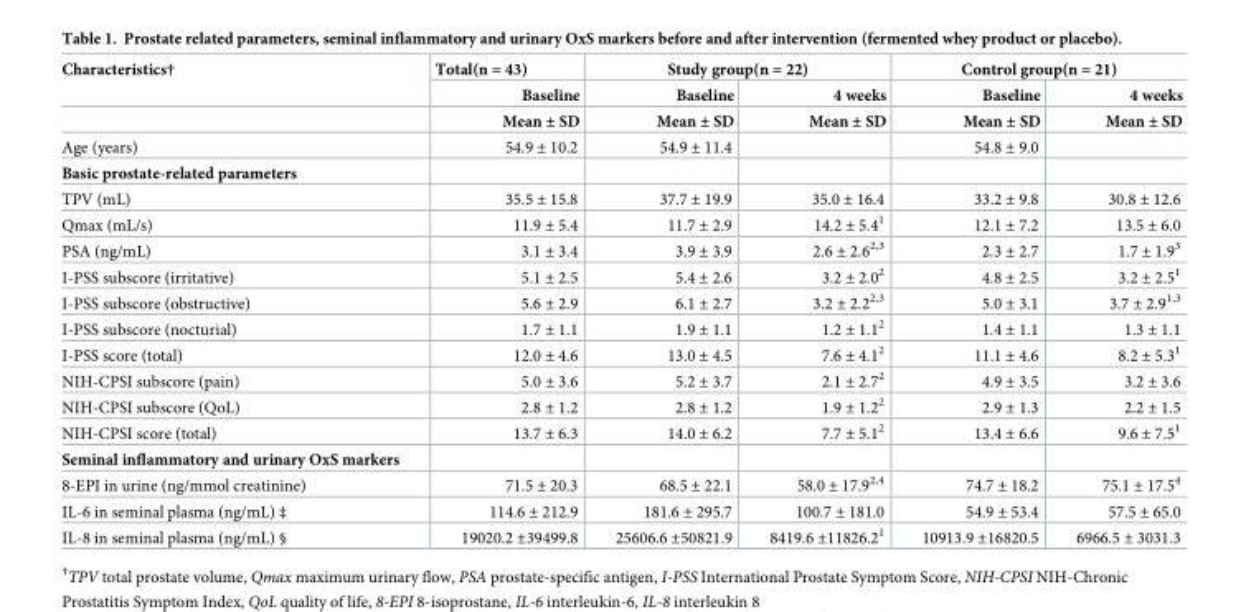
<table><thead><tr><td rowspan="3">Characteristics†</td><td rowspan="3">Total(n = 43) Baseline Mean ± SD</td><td colspan="2">Study group(n = 22)</td><td colspan="2">Control group(n = 21)</td></tr><tr><td rowspan="2">Baseline Mean ± SD</td><td rowspan="2">4 weeks Mean ± SD</td><td rowspan="2">Baseline Mean ± SD</td><td rowspan="2">4 weeks Mean ± SD</td></tr><tr></tr></thead><tbody><tr><td>Age (years)</td><td>54.9 ± 10.2</td><td>54.9 ± 11.4</td><td></td><td>54.8 ± 9.0</td><td></td></tr><tr><td colspan="6">Basic prostate-related parameters</td></tr><tr><td>TPV (mL)</td><td>35.5 ± 15.8</td><td>37.7 ± 19.9</td><td>35.0 ± 16.4</td><td>33.2 ± 9.8</td><td>30.8 ± 12.6</td></tr><tr><td>Qmax (mL/s)</td><td>11.9 ± 5.4</td><td>11.7 ± 2.9</td><td>14.2 ± 5.4<sup>1</sup></td><td>12.1 ± 7.2</td><td>13.5 ± 6.0</td></tr><tr><td>PSA (ng/mL)</td><td>3.1 ± 3.4</td><td>3.9 ± 3.9</td><td>2.6 ± 2.6<sup>2,3</sup></td><td>2.3 ± 2.7</td><td>1.7 ± 1.9<sup>3</sup></td></tr><tr><td>I-PSS subscore (irritative)</td><td>5.1 ± 2.5</td><td>5.4 ± 2.6</td><td>3.2 ± 2.0<sup>2</sup></td><td>4.8 ± 2.5</td><td>3.2 ± 2.5<sup>1</sup></td></tr><tr><td>I-PSS subscore (obstructive)</td><td>5.6 ± 2.9</td><td>6.1 ± 2.7</td><td>3.2 ± 2.2<sup>2,3</sup></td><td>5.0 ± 3.1</td><td>3.7 ± 2.9<sup>1,3</sup></td></tr><tr><td>I-PSS subscore (nocturial)</td><td>1.7 ± 1.1</td><td>1.9 ± 1.1</td><td>1.2 ± 1.1<sup>2</sup></td><td>1.4 ± 1.1</td><td>1.3 ± 1.1</td></tr><tr><td>I-PSS score (total)</td><td>12.0 ± 4.6</td><td>13.0 ± 4.5</td><td>7.6 ± 4.1<sup>2</sup></td><td>11.1 ± 4.6</td><td>8.2 ± 5.3<sup>1</sup></td></tr><tr><td>NIH-CPSI subscore (pain)</td><td>5.0 ± 3.6</td><td>5.2 ± 3.7</td><td>2.1 ± 2.7<sup>2</sup></td><td>4.9 ± 3.5</td><td>3.2 ± 3.6</td></tr><tr><td>NIH-CPSI subscore (QoL)</td><td>2.8 ± 1.2</td><td>2.8 ± 1.2</td><td>1.9 ± 1.2<sup>2</sup></td><td>2.9 ± 1.3</td><td>2.2 ± 1.5</td></tr><tr><td>NIH-CPSI score (total)</td><td>13.7 ± 6.3</td><td>14.0 ± 6.2</td><td>7.7 ± 5.1<sup>2</sup></td><td>13.4 ± 6.6</td><td>9.6 ± 7.5<sup>1</sup></td></tr><tr><td colspan="6">Seminal inflammatory and urinary OxS markers</td></tr><tr><td>8-EPI in urine (ng/mmol creatinine)</td><td>71.5 ± 20.3</td><td>68.5 ± 22.1</td><td>58.0 ± 17.9<sup>2,4</sup></td><td>74.7 ± 18.2</td><td>75.1 ± 17.5<sup>4</sup></td></tr><tr><td>IL-6 in seminal plasma (ng/mL) ‡</td><td>114.6 ± 212.9</td><td>181.6 ± 295.7</td><td>100.7 ± 181.0</td><td>54.9 ± 53.4</td><td>57.5 ± 65.0</td></tr><tr><td>IL-8 in seminal plasma (ng/mL) §</td><td>19020.2 ±39499.8</td><td>25606.6 ±50821.9</td><td>8419.6 ±11826.2<sup>1</sup></td><td>10913.9 ±16820.5</td><td>6966.5 ± 3031.3</td></tr></tbody></table>